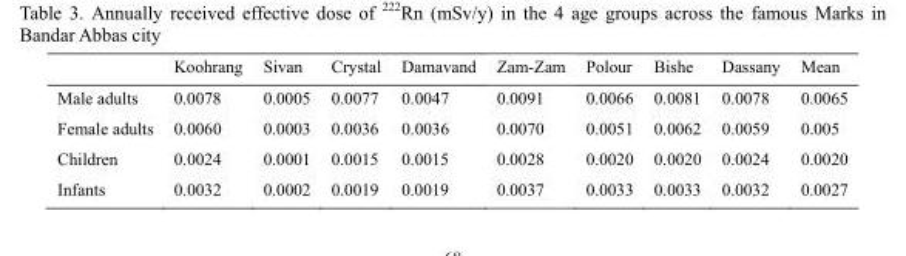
<table><thead><tr><td></td><td>Koohrang</td><td>Sivan</td><td>Crystal</td><td>Damavand</td><td>Zam-Zam</td><td>Polour</td><td>Bishe</td><td>Dassany</td><td>Mean</td></tr></thead><tbody><tr><td>Male adults</td><td>0.0078</td><td>0.0005</td><td>0.0077</td><td>0.0047</td><td>0.0091</td><td>0.0066</td><td>0.0081</td><td>0.0078</td><td>0.0065</td></tr><tr><td>Female adults</td><td>0.0060</td><td>0.0003</td><td>0.0036</td><td>0.0036</td><td>0.0070</td><td>0.0051</td><td>0.0062</td><td>0.0059</td><td>0.005</td></tr><tr><td>Children</td><td>0.0024</td><td>0.0001</td><td>0.0015</td><td>0.0015</td><td>0.0028</td><td>0.0020</td><td>0.0020</td><td>0.0024</td><td>0.0020</td></tr><tr><td>Infants</td><td>0.0032</td><td>0.0002</td><td>0.0019</td><td>0.0019</td><td>0.0037</td><td>0.0033</td><td>0.0033</td><td>0.0032</td><td>0.0027</td></tr></tbody></table>